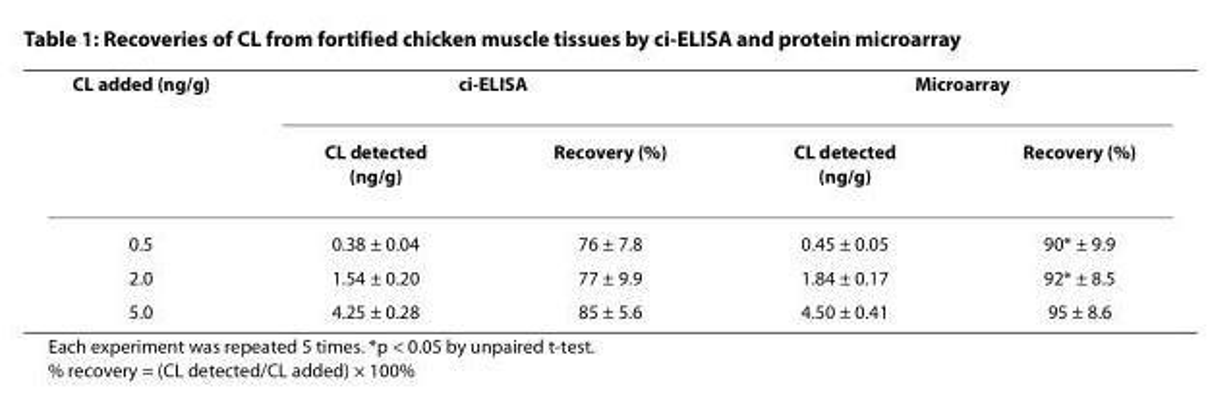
<table><thead><tr><td rowspan="2">CL added (ng/g)</td><td colspan="2">ci-ELISA</td><td colspan="2">Microarray</td></tr><tr><td>CL detected (ng/g)</td><td>Recovery (%)</td><td>CL detected (ng/g)</td><td>Recovery (%)</td></tr></thead><tbody><tr><td>0.5</td><td>0.38 ± 0.04</td><td>76 ± 7.8</td><td>0.45 ± 0.05</td><td>90* ± 9.9</td></tr><tr><td>2.0</td><td>1.54 ± 0.20</td><td>77 ± 9.9</td><td>1.84 ± 0.17</td><td>92* ± 8.5</td></tr><tr><td>5.0</td><td>4.25 ± 0.28</td><td>85 ± 5.6</td><td>4.50 ± 0.41</td><td>95 ± 8.6</td></tr></tbody></table>